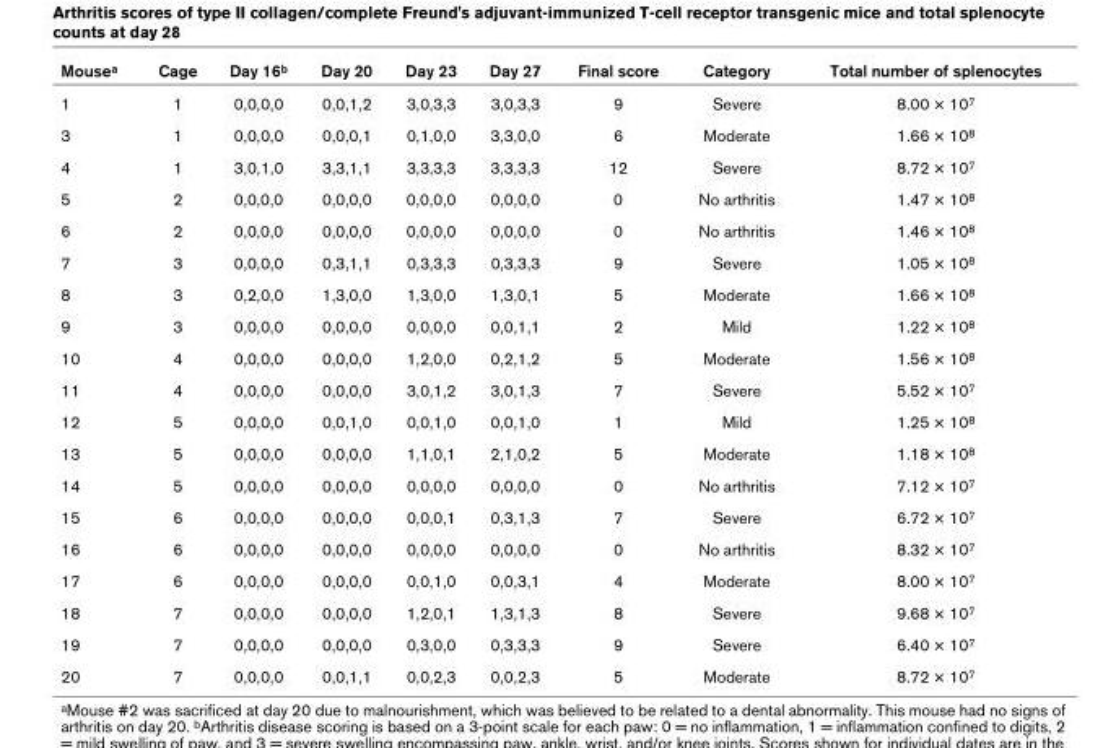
<table><thead><tr><td>Mouse<sup>a</sup></td><td>Cage</td><td>Day 16<sup>b</sup></td><td>Day 20</td><td>Day 23</td><td>Day 27</td><td>Final score</td><td>Category</td><td>Total number of splenocytes</td></tr></thead><tbody><tr><td>1</td><td>1</td><td>0,0,0,0</td><td>0,0,1,2</td><td>3,0,3,3</td><td>3,0,3,3</td><td>9</td><td>Severe</td><td>8.00 × 10<sup>7</sup></td></tr><tr><td>3</td><td>1</td><td>0,0,0,0</td><td>0,0,0,1</td><td>0,1,0,0</td><td>3,3,0,0</td><td>6</td><td>Moderate</td><td>1.66 × 10<sup>8</sup></td></tr><tr><td>4</td><td>1</td><td>3,0,1,0</td><td>3,3,1,1</td><td>3,3,3,3</td><td>3,3,3,3</td><td>12</td><td>Severe</td><td>8.72 × 10<sup>7</sup></td></tr><tr><td>5</td><td>2</td><td>0,0,0,0</td><td>0,0,0,0</td><td>0,0,0,0</td><td>0,0,0,0</td><td>0</td><td>No arthritis</td><td>1.47 × 10<sup>8</sup></td></tr><tr><td>6</td><td>2</td><td>0,0,0,0</td><td>0,0,0,0</td><td>0,0,0,0</td><td>0,0,0,0</td><td>0</td><td>No arthritis</td><td>1.46 × 10<sup>8</sup></td></tr><tr><td>7</td><td>3</td><td>0,0,0,0</td><td>0,3,1,1</td><td>0,3,3,3</td><td>0,3,3,3</td><td>9</td><td>Severe</td><td>1.05 × 10<sup>8</sup></td></tr><tr><td>8</td><td>3</td><td>0,2,0,0</td><td>1,3,0,0</td><td>1,3,0,0</td><td>1,3,0,1</td><td>5</td><td>Moderate</td><td>1.66 × 10<sup>8</sup></td></tr><tr><td>9</td><td>3</td><td>0,0,0,0</td><td>0,0,0,0</td><td>0,0,0,0</td><td>0,0,1,1</td><td>2</td><td>Mild</td><td>1.22 × 10<sup>8</sup></td></tr><tr><td>10</td><td>4</td><td>0,0,0,0</td><td>0,0,0,0</td><td>1,2,0,0</td><td>0,2,1,2</td><td>5</td><td>Moderate</td><td>1.56 × 10<sup>8</sup></td></tr><tr><td>11</td><td>4</td><td>0,0,0,0</td><td>0,0,0,0</td><td>3,0,1,2</td><td>3,0,1,3</td><td>7</td><td>Severe</td><td>5.52 × 10<sup>7</sup></td></tr><tr><td>12</td><td>5</td><td>0,0,0,0</td><td>0,0,1,0</td><td>0,0,1,0</td><td>0,0,1,0</td><td>1</td><td>Mild</td><td>1.25 × 10<sup>8</sup></td></tr><tr><td>13</td><td>5</td><td>0,0,0,0</td><td>0,0,0,0</td><td>1,1,0,1</td><td>2,1,0,2</td><td>5</td><td>Moderate</td><td>1.18 × 10<sup>8</sup></td></tr><tr><td>14</td><td>5</td><td>0,0,0,0</td><td>0,0,0,0</td><td>0,0,0,0</td><td>0,0,0,0</td><td>0</td><td>No arthritis</td><td>7.12 × 10<sup>7</sup></td></tr><tr><td>15</td><td>6</td><td>0,0,0,0</td><td>0,0,0,0</td><td>0,0,0,1</td><td>0,3,1,3</td><td>7</td><td>Severe</td><td>6.72 × 10<sup>7</sup></td></tr><tr><td>16</td><td>6</td><td>0,0,0,0</td><td>0,0,0,0</td><td>0,0,0,0</td><td>0,0,0,0</td><td>0</td><td>No arthritis</td><td>8.32 × 10<sup>7</sup></td></tr><tr><td>17</td><td>6</td><td>0,0,0,0</td><td>0,0,0,0</td><td>0,0,1,0</td><td>0,0,3,1</td><td>4</td><td>Moderate</td><td>8.00 × 10<sup>7</sup></td></tr><tr><td>18</td><td>7</td><td>0,0,0,0</td><td>0,0,0,0</td><td>1,2,0,1</td><td>1,3,1,3</td><td>8</td><td>Severe</td><td>9.68 × 10<sup>7</sup></td></tr><tr><td>19</td><td>7</td><td>0,0,0,0</td><td>0,0,0,0</td><td>0,3,0,0</td><td>0,3,3,3</td><td>9</td><td>Severe</td><td>6.40 × 10<sup>7</sup></td></tr><tr><td>20</td><td>7</td><td>0,0,0,0</td><td>0,0,1,1</td><td>0,0,2,3</td><td>0,0,2,3</td><td>5</td><td>Moderate</td><td>8.72 × 10<sup>7</sup></td></tr></tbody></table>